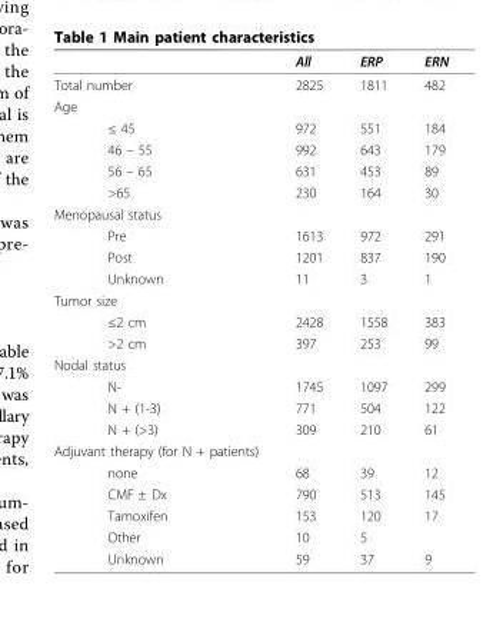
<table><thead><tr><td></td><td>All</td><td>ERP</td><td>ERN</td></tr></thead><tbody><tr><td>Total number</td><td>2825</td><td>1811</td><td>482</td></tr><tr><td colspan="4">Age</td></tr><tr><td>≤ 45</td><td>972</td><td>551</td><td>184</td></tr><tr><td>46 – 55</td><td>992</td><td>643</td><td>179</td></tr><tr><td>56 – 65</td><td>631</td><td>453</td><td>89</td></tr><tr><td>&gt;65</td><td>230</td><td>164</td><td>30</td></tr><tr><td colspan="4">Menopausal status</td></tr><tr><td>Pre</td><td>1613</td><td>972</td><td>291</td></tr><tr><td>Post</td><td>1201</td><td>837</td><td>190</td></tr><tr><td>Unknown</td><td>11</td><td>3</td><td>1</td></tr><tr><td colspan="4">Tumor size</td></tr><tr><td>≤2 cm</td><td>2428</td><td>1558</td><td>383</td></tr><tr><td>&gt;2 cm</td><td>397</td><td>253</td><td>99</td></tr><tr><td colspan="4">Nodal status</td></tr><tr><td>N-</td><td>1745</td><td>1097</td><td>299</td></tr><tr><td>N + (1-3)</td><td>771</td><td>504</td><td>122</td></tr><tr><td>N + (&gt;3)</td><td>309</td><td>210</td><td>61</td></tr><tr><td colspan="4">Adjuvant therapy (for N + patients)</td></tr><tr><td>none</td><td>68</td><td>39</td><td>12</td></tr><tr><td>CMF ± Dx</td><td>790</td><td>513</td><td>145</td></tr><tr><td>Tamoxifen</td><td>153</td><td>120</td><td>17</td></tr><tr><td>Other</td><td>10</td><td>5</td><td></td></tr><tr><td>Unknown</td><td>59</td><td>37</td><td>9</td></tr></tbody></table>